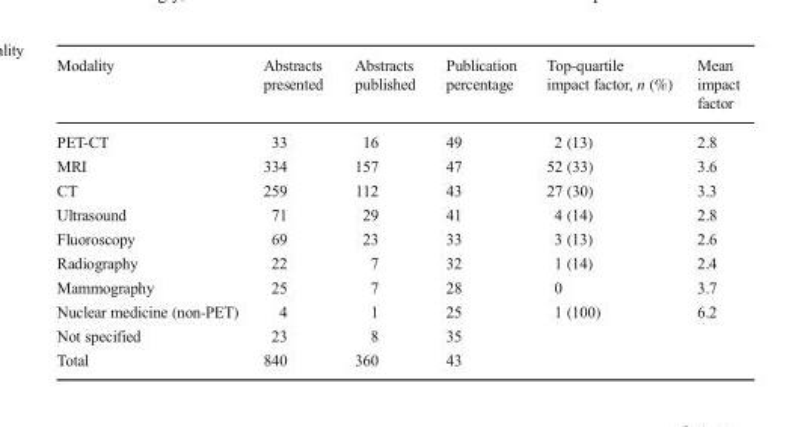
<table><thead><tr><td>Modality</td><td>Abstracts presented</td><td>Abstracts published</td><td>Publication percentage</td><td>Top-quartile impact factor, n (%)</td><td>Mean impact factor</td></tr></thead><tbody><tr><td>PET-CT</td><td>33</td><td>16</td><td>49</td><td>2 (13)</td><td>2.8</td></tr><tr><td>MRI</td><td>334</td><td>157</td><td>47</td><td>52 (33)</td><td>3.6</td></tr><tr><td>CT</td><td>259</td><td>112</td><td>43</td><td>27 (30)</td><td>3.3</td></tr><tr><td>Ultrasound</td><td>71</td><td>29</td><td>41</td><td>4 (14)</td><td>2.8</td></tr><tr><td>Fluoroscopy</td><td>69</td><td>23</td><td>33</td><td>3 (13)</td><td>2.6</td></tr><tr><td>Radiography</td><td>22</td><td>7</td><td>32</td><td>1 (14)</td><td>2.4</td></tr><tr><td>Mammography</td><td>25</td><td>7</td><td>28</td><td>0</td><td>3.7</td></tr><tr><td>Nuclear medicine (non-PET)</td><td>4</td><td>1</td><td>25</td><td>1 (100)</td><td>6.2</td></tr><tr><td>Not specified</td><td>23</td><td>8</td><td>35</td><td></td><td></td></tr><tr><td>Total</td><td>840</td><td>360</td><td>43</td><td></td><td></td></tr></tbody></table>